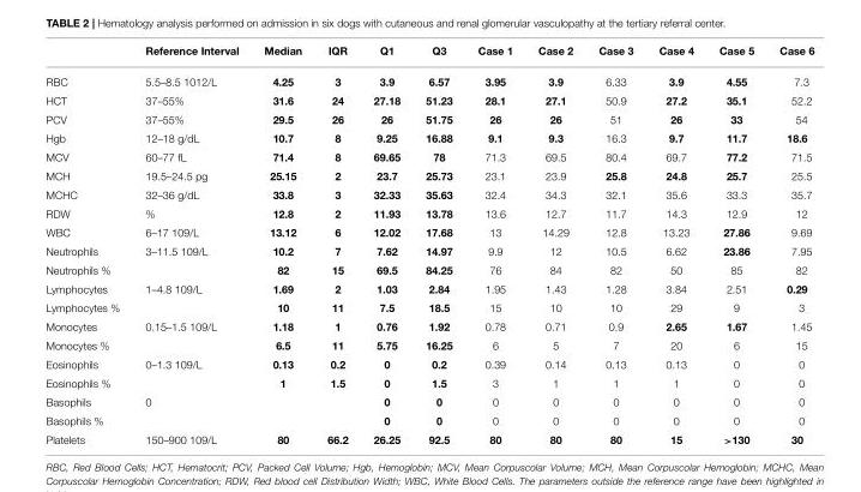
<table><thead><tr><td></td><td>Reference Interval</td><td>Median</td><td>IQR</td><td>Q1</td><td>Q3</td><td>Case 1</td><td>Case 2</td><td>Case 3</td><td>Case 4</td><td>Case 5</td><td>Case 6</td></tr></thead><tbody><tr><td>RBC</td><td>5.5–8.5 1012/L</td><td>4.25</td><td>3</td><td>3.9</td><td>6.57</td><td>3.95</td><td>3.9</td><td>6.33</td><td>3.9</td><td>4.55</td><td>7.3</td></tr><tr><td>HCT</td><td>37–55%</td><td>31.6</td><td>24</td><td>27.18</td><td>51.23</td><td>28.1</td><td>27.1</td><td>50.9</td><td>27.2</td><td>35.1</td><td>52.2</td></tr><tr><td>PCV</td><td>37–55%</td><td>29.5</td><td>26</td><td>26</td><td>51.75</td><td>26</td><td>26</td><td>51</td><td>26</td><td>33</td><td>54</td></tr><tr><td>Hgb</td><td>12–18 g/dL</td><td>10.7</td><td>8</td><td>9.25</td><td>16.88</td><td>9.1</td><td>9.3</td><td>16.3</td><td>9.7</td><td>11.7</td><td>18.6</td></tr><tr><td>MCV</td><td>60–77 fL</td><td>71.4</td><td>8</td><td>69.65</td><td>78</td><td>71.3</td><td>69.5</td><td>80.4</td><td>69.7</td><td>77.2</td><td>71.5</td></tr><tr><td>MCH</td><td>19.5–24.5 pg</td><td>25.15</td><td>2</td><td>23.7</td><td>25.73</td><td>23.1</td><td>23.9</td><td>25.8</td><td>24.8</td><td>25.7</td><td>25.5</td></tr><tr><td>MCHC</td><td>32–36 g/dL</td><td>33.8</td><td>3</td><td>32.33</td><td>35.63</td><td>32.4</td><td>34.3</td><td>32.1</td><td>35.6</td><td>33.3</td><td>35.7</td></tr><tr><td>RDW</td><td>%</td><td>12.8</td><td>2</td><td>11.93</td><td>13.78</td><td>13.6</td><td>12.7</td><td>11.7</td><td>14.3</td><td>12.9</td><td>12</td></tr><tr><td>WBC</td><td>6–17 109/L</td><td>13.12</td><td>6</td><td>12.02</td><td>17.68</td><td>13</td><td>14.29</td><td>12.8</td><td>13.23</td><td>27.86</td><td>9.69</td></tr><tr><td>Neutrophils</td><td>3–11.5 109/L</td><td>10.2</td><td>7</td><td>7.62</td><td>14.97</td><td>9.9</td><td>12</td><td>10.5</td><td>6.62</td><td>23.86</td><td>7.95</td></tr><tr><td>Neutrophils %</td><td></td><td>82</td><td>15</td><td>69.5</td><td>84.25</td><td>76</td><td>84</td><td>82</td><td>50</td><td>85</td><td>82</td></tr><tr><td>Lymphocytes</td><td>1–4.8 109/L</td><td>1.69</td><td>2</td><td>1.03</td><td>2.84</td><td>1.95</td><td>1.43</td><td>1.28</td><td>3.84</td><td>2.51</td><td>0.29</td></tr><tr><td>Lymphocytes %</td><td></td><td>10</td><td>11</td><td>7.5</td><td>18.5</td><td>15</td><td>10</td><td>10</td><td>29</td><td>9</td><td>3</td></tr><tr><td>Monocytes</td><td>0.15–1.5 109/L</td><td>1.18</td><td>1</td><td>0.76</td><td>1.92</td><td>0.78</td><td>0.71</td><td>0.9</td><td>2.65</td><td>1.67</td><td>1.45</td></tr><tr><td>Monocytes %</td><td></td><td>6.5</td><td>11</td><td>5.75</td><td>16.25</td><td>6</td><td>5</td><td>7</td><td>20</td><td>6</td><td>15</td></tr><tr><td>Eosinophils</td><td>0–1.3 109/L</td><td>0.13</td><td>0.2</td><td>0</td><td>0.2</td><td>0.39</td><td>0.14</td><td>0.13</td><td>0.13</td><td>0</td><td>0</td></tr><tr><td>Eosinophils %</td><td></td><td>1</td><td>1.5</td><td>0</td><td>1.5</td><td>3</td><td>1</td><td>1</td><td>1</td><td>0</td><td>0</td></tr><tr><td>Basophils</td><td>0</td><td></td><td></td><td>0</td><td>0</td><td>0</td><td>0</td><td>0</td><td>0</td><td>0</td><td>0</td></tr><tr><td>Basophils %</td><td></td><td></td><td></td><td>0</td><td>0</td><td>0</td><td>0</td><td>0</td><td>0</td><td>0</td><td>0</td></tr><tr><td>Platelets</td><td>150–900 109/L</td><td>80</td><td>66.2</td><td>26.25</td><td>92.5</td><td>80</td><td>80</td><td>80</td><td>15</td><td>&gt;130</td><td>30</td></tr></tbody></table>